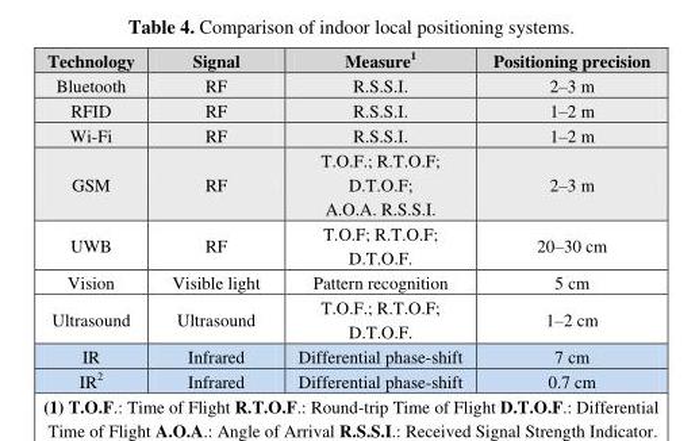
<table><thead><tr><td>Technology</td><td>Signal</td><td>Measure<sup>1</sup></td><td>Positioning precision</td></tr></thead><tbody><tr><td>Bluetooth</td><td>RF</td><td>R.S.S.I.</td><td>2–3 m</td></tr><tr><td>RFID</td><td>RF</td><td>R.S.S.I.</td><td>1–2 m</td></tr><tr><td>Wi-Fi</td><td>RF</td><td>R.S.S.I.</td><td>1–2 m</td></tr><tr><td>GSM</td><td>RF</td><td>T.O.F.; R.T.O.F; D.T.O.F; A.O.A. R.S.S.I.</td><td>2–3 m</td></tr><tr><td>UWB</td><td>RF</td><td>T.O.F; R.T.O.F; D.T.O.F.</td><td>20–30 cm</td></tr><tr><td>Vision</td><td>Visible light</td><td>Pattern recognition</td><td>5 cm</td></tr><tr><td>Ultrasound</td><td>Ultrasound</td><td>T.O.F.; R.T.O.F; D.T.O.F.</td><td>1–2 cm</td></tr><tr><td>IR</td><td>Infrared</td><td>Differential phase-shift</td><td>7 cm</td></tr><tr><td>IR<sup>2</sup></td><td>Infrared</td><td>Differential phase-shift</td><td>0.7 cm</td></tr></tbody></table>